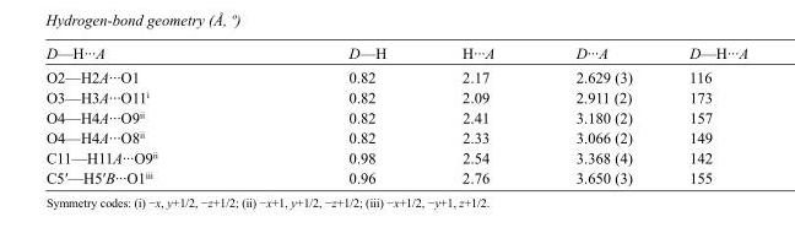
<table><tbody><tr><td>D—H···A</td><td>D—H</td><td>H···A</td><td>D···A</td><td>D—H···A</td></tr><tr><td>O2—H2A···O1</td><td>0.82</td><td>2.17</td><td>2.629 (3)</td><td>116</td></tr><tr><td>O3—H3A···O11<sup>i</sup></td><td>0.82</td><td>2.09</td><td>2.911 (2)</td><td>173</td></tr><tr><td>O4—H4A···O9<sup>ii</sup></td><td>0.82</td><td>2.41</td><td>3.180 (2)</td><td>157</td></tr><tr><td>O4—H4A···O8<sup>ii</sup></td><td>0.82</td><td>2.33</td><td>3.066 (2)</td><td>149</td></tr><tr><td>C11—H11A···O9<sup>ii</sup></td><td>0.98</td><td>2.54</td><td>3.368 (4)</td><td>142</td></tr><tr><td>C5′—H5′B···O1<sup>iii</sup></td><td>0.96</td><td>2.76</td><td>3.650 (3)</td><td>155</td></tr></tbody></table>